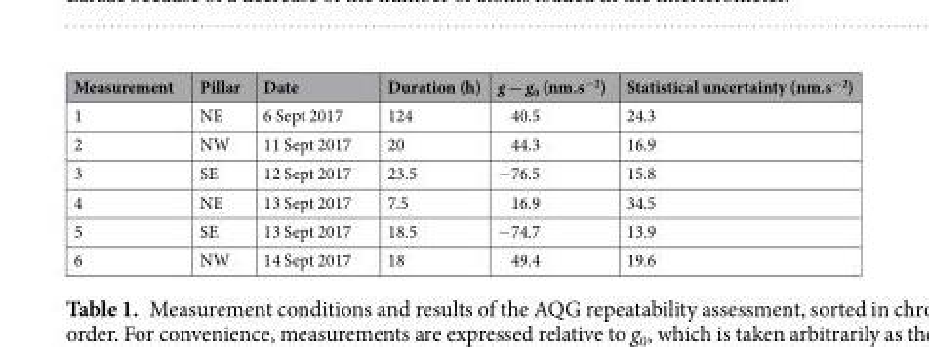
<table><thead><tr><td>Measurement</td><td>Pillar</td><td>Date</td><td>Duration (h)</td><td>g − g<sub>0</sub> (nm.s<sup>−2</sup>)</td><td>Statistical uncertainty (nm.s<sup>−2</sup>)</td></tr></thead><tbody><tr><td>1</td><td>NE</td><td>6 Sept 2017</td><td>124</td><td>40.5</td><td>24.3</td></tr><tr><td>2</td><td>NW</td><td>11 Sept 2017</td><td>20</td><td>44.3</td><td>16.9</td></tr><tr><td>3</td><td>SE</td><td>12 Sept 2017</td><td>23.5</td><td>−76.5</td><td>15.8</td></tr><tr><td>4</td><td>NE</td><td>13 Sept 2017</td><td>7.5</td><td>16.9</td><td>34.5</td></tr><tr><td>5</td><td>SE</td><td>13 Sept 2017</td><td>18.5</td><td>−74.7</td><td>13.9</td></tr><tr><td>6</td><td>NW</td><td>14 Sept 2017</td><td>18</td><td>49.4</td><td>19.6</td></tr></tbody></table>